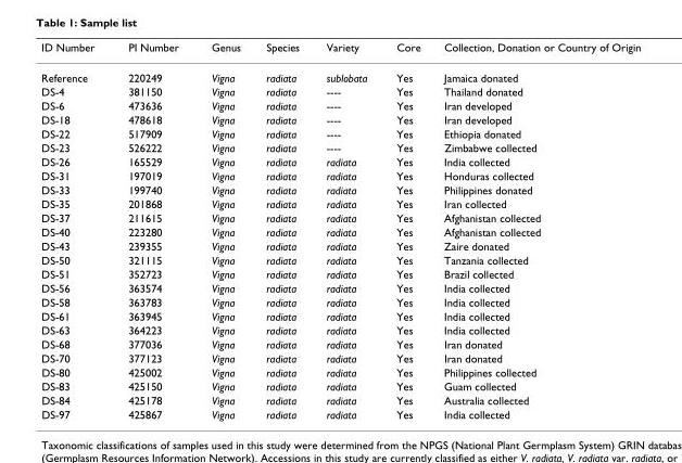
<table><thead><tr><td>ID Number</td><td>PI Number</td><td>Genus</td><td>Species</td><td>Variety</td><td>Core</td><td>Collection, Donation or Country of Origin</td></tr></thead><tbody><tr><td>Reference</td><td>220249</td><td>Vigna</td><td>radiata</td><td>sublobata</td><td>Yes</td><td>Jamaica donated</td></tr><tr><td>DS-4</td><td>381150</td><td>Vigna</td><td>radiata</td><td>----</td><td>Yes</td><td>Thailand donated</td></tr><tr><td>DS-6</td><td>473636</td><td>Vigna</td><td>radiata</td><td>----</td><td>Yes</td><td>Iran developed</td></tr><tr><td>DS-18</td><td>478618</td><td>Vigna</td><td>radiata</td><td>----</td><td>Yes</td><td>Iran developed</td></tr><tr><td>DS-22</td><td>517909</td><td>Vigna</td><td>radiata</td><td>----</td><td>Yes</td><td>Ethiopia donated</td></tr><tr><td>DS-23</td><td>526222</td><td>Vigna</td><td>radiata</td><td>----</td><td>Yes</td><td>Zimbabwe collected</td></tr><tr><td>DS-26</td><td>165529</td><td>Vigna</td><td>radiata</td><td>radiata</td><td>Yes</td><td>India collected</td></tr><tr><td>DS-31</td><td>197019</td><td>Vigna</td><td>radiata</td><td>radiata</td><td>Yes</td><td>Honduras collected</td></tr><tr><td>DS-33</td><td>199740</td><td>Vigna</td><td>radiata</td><td>radiata</td><td>Yes</td><td>Philippines donated</td></tr><tr><td>DS-35</td><td>201868</td><td>Vigna</td><td>radiata</td><td>radiata</td><td>Yes</td><td>Iran collected</td></tr><tr><td>DS-37</td><td>211615</td><td>Vigna</td><td>radiata</td><td>radiata</td><td>Yes</td><td>Afghanistan collected</td></tr><tr><td>DS-40</td><td>223280</td><td>Vigna</td><td>radiata</td><td>radiata</td><td>Yes</td><td>Afghanistan collected</td></tr><tr><td>DS-43</td><td>239355</td><td>Vigna</td><td>radiata</td><td>radiata</td><td>Yes</td><td>Zaire donated</td></tr><tr><td>DS-50</td><td>321115</td><td>Vigna</td><td>radiata</td><td>radiata</td><td>Yes</td><td>Tanzania collected</td></tr><tr><td>DS-51</td><td>352723</td><td>Vigna</td><td>radiata</td><td>radiata</td><td>Yes</td><td>Brazil collected</td></tr><tr><td>DS-56</td><td>363574</td><td>Vigna</td><td>radiata</td><td>radiata</td><td>Yes</td><td>India collected</td></tr><tr><td>DS-58</td><td>363783</td><td>Vigna</td><td>radiata</td><td>radiata</td><td>Yes</td><td>India collected</td></tr><tr><td>DS-61</td><td>363945</td><td>Vigna</td><td>radiata</td><td>radiata</td><td>Yes</td><td>India collected</td></tr><tr><td>DS-63</td><td>364223</td><td>Vigna</td><td>radiata</td><td>radiata</td><td>Yes</td><td>India collected</td></tr><tr><td>DS-68</td><td>377036</td><td>Vigna</td><td>radiata</td><td>radiata</td><td>Yes</td><td>Iran donated</td></tr><tr><td>DS-70</td><td>377123</td><td>Vigna</td><td>radiata</td><td>radiata</td><td>Yes</td><td>Iran donated</td></tr><tr><td>DS-80</td><td>425002</td><td>Vigna</td><td>radiata</td><td>radiata</td><td>Yes</td><td>Philippines collected</td></tr><tr><td>DS-83</td><td>425150</td><td>Vigna</td><td>radiata</td><td>radiata</td><td>Yes</td><td>Guam collected</td></tr><tr><td>DS-84</td><td>425178</td><td>Vigna</td><td>radiata</td><td>radiata</td><td>Yes</td><td>Australia collected</td></tr><tr><td>DS-97</td><td>425867</td><td>Vigna</td><td>radiata</td><td>radiata</td><td>Yes</td><td>India collected</td></tr></tbody></table>